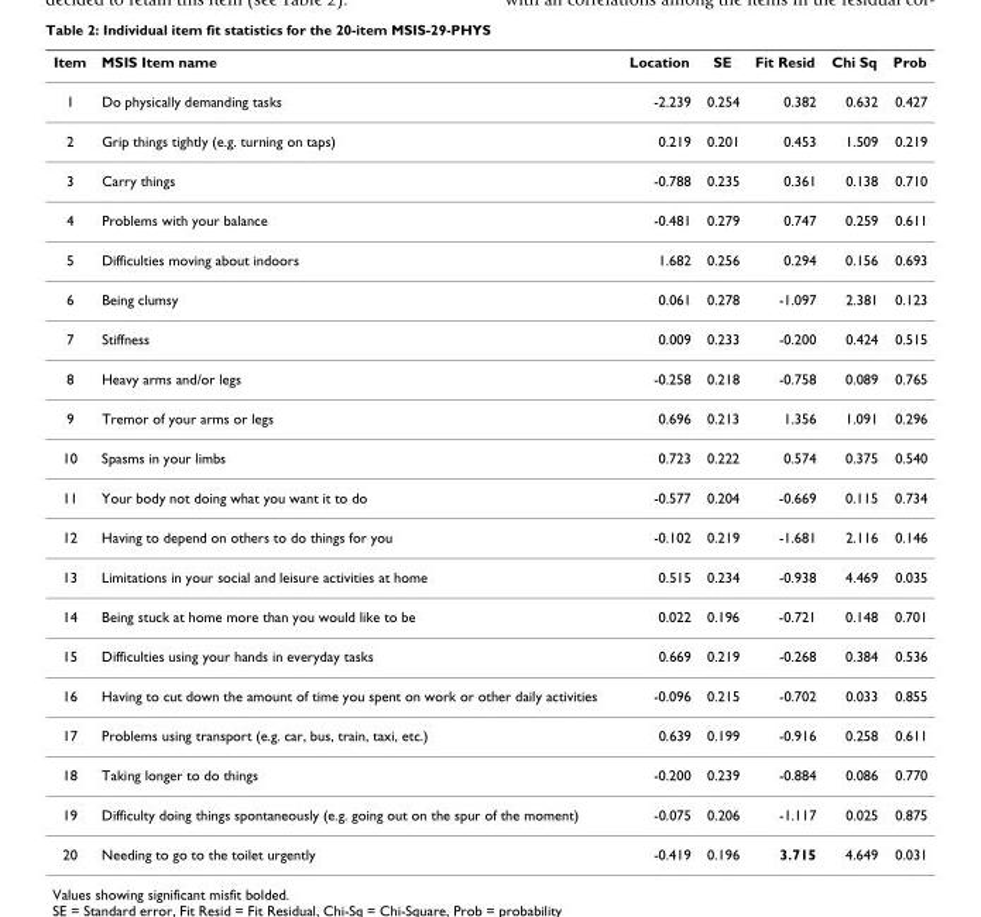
<table><thead><tr><td>Item</td><td>MSIS Item name</td><td>Location</td><td>SE</td><td>Fit Resid</td><td>Chi Sq</td><td>Prob</td></tr></thead><tbody><tr><td>1</td><td>Do physically demanding tasks</td><td>-2.239</td><td>0.254</td><td>0.382</td><td>0.632</td><td>0.427</td></tr><tr><td>2</td><td>Grip things tightly (e.g. turning on taps)</td><td>0.219</td><td>0.201</td><td>0.453</td><td>1.509</td><td>0.219</td></tr><tr><td>3</td><td>Carry things</td><td>-0.788</td><td>0.235</td><td>0.361</td><td>0.138</td><td>0.710</td></tr><tr><td>4</td><td>Problems with your balance</td><td>-0.481</td><td>0.279</td><td>0.747</td><td>0.259</td><td>0.611</td></tr><tr><td>5</td><td>Difficulties moving about indoors</td><td>1.682</td><td>0.256</td><td>0.294</td><td>0.156</td><td>0.693</td></tr><tr><td>6</td><td>Being clumsy</td><td>0.061</td><td>0.278</td><td>-1.097</td><td>2.381</td><td>0.123</td></tr><tr><td>7</td><td>Stiffness</td><td>0.009</td><td>0.233</td><td>-0.200</td><td>0.424</td><td>0.515</td></tr><tr><td>8</td><td>Heavy arms and/or legs</td><td>-0.258</td><td>0.218</td><td>-0.758</td><td>0.089</td><td>0.765</td></tr><tr><td>9</td><td>Tremor of your arms or legs</td><td>0.696</td><td>0.213</td><td>1.356</td><td>1.091</td><td>0.296</td></tr><tr><td>10</td><td>Spasms in your limbs</td><td>0.723</td><td>0.222</td><td>0.574</td><td>0.375</td><td>0.540</td></tr><tr><td>11</td><td>Your body not doing what you want it to do</td><td>-0.577</td><td>0.204</td><td>-0.669</td><td>0.115</td><td>0.734</td></tr><tr><td>12</td><td>Having to depend on others to do things for you</td><td>-0.102</td><td>0.219</td><td>-1.681</td><td>2.116</td><td>0.146</td></tr><tr><td>13</td><td>Limitations in your social and leisure activities at home</td><td>0.515</td><td>0.234</td><td>-0.938</td><td>4.469</td><td>0.035</td></tr><tr><td>14</td><td>Being stuck at home more than you would like to be</td><td>0.022</td><td>0.196</td><td>-0.721</td><td>0.148</td><td>0.701</td></tr><tr><td>15</td><td>Difficulties using your hands in everyday tasks</td><td>0.669</td><td>0.219</td><td>-0.268</td><td>0.384</td><td>0.536</td></tr><tr><td>16</td><td>Having to cut down the amount of time you spent on work or other daily activities</td><td>-0.096</td><td>0.215</td><td>-0.702</td><td>0.033</td><td>0.855</td></tr><tr><td>17</td><td>Problems using transport (e.g. car, bus, train, taxi, etc.)</td><td>0.639</td><td>0.199</td><td>-0.916</td><td>0.258</td><td>0.611</td></tr><tr><td>18</td><td>Taking longer to do things</td><td>-0.200</td><td>0.239</td><td>-0.884</td><td>0.086</td><td>0.770</td></tr><tr><td>19</td><td>Difficulty doing things spontaneously (e.g. going out on the spur of the moment)</td><td>-0.075</td><td>0.206</td><td>-1.117</td><td>0.025</td><td>0.875</td></tr><tr><td>20</td><td>Needing to go to the toilet urgently</td><td>-0.419</td><td>0.196</td><td>3.715</td><td>4.649</td><td>0.031</td></tr></tbody></table>